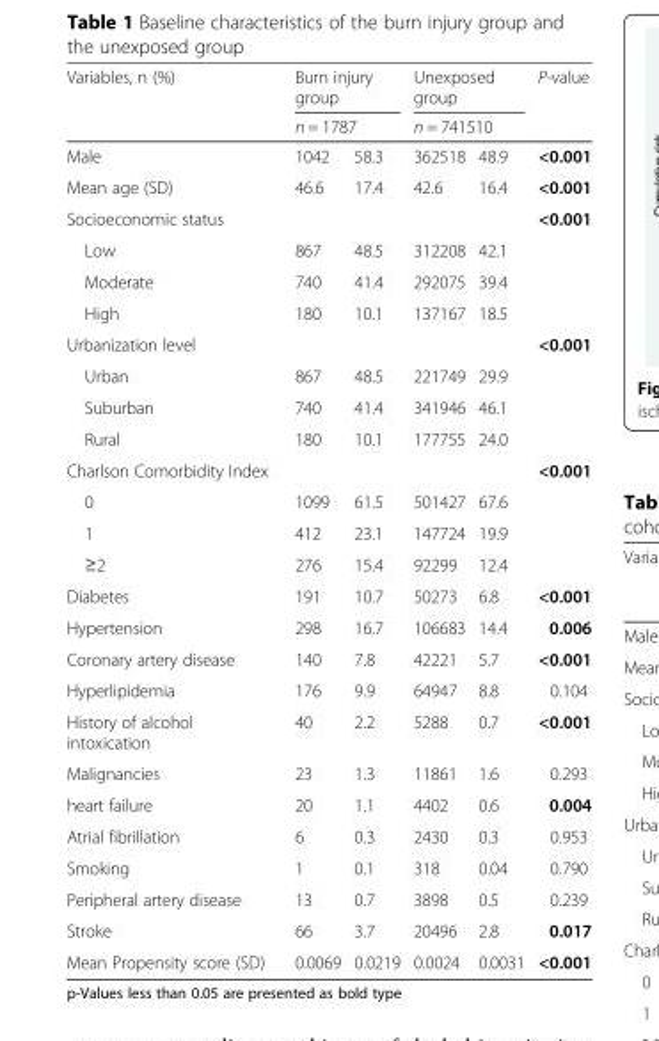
<table><thead><tr><td rowspan="3">Variables, n (%) Male</td><td rowspan="2" colspan="2">Burn injury group n = 1787</td><td rowspan="2" colspan="2">Unexposed group n = 741510</td><td rowspan="3">P-value &lt;0.001</td></tr><tr></tr><tr><td>1042</td><td>58.3</td><td>362518</td><td>48.9</td></tr></thead><tbody><tr><td>Mean age (SD)</td><td>46.6</td><td>17.4</td><td>42.6</td><td>16.4</td><td>&lt;0.001</td></tr><tr><td>Socioeconomic status</td><td></td><td></td><td></td><td></td><td>&lt;0.001</td></tr><tr><td>Low</td><td>867</td><td>48.5</td><td>312208</td><td>42.1</td><td></td></tr><tr><td>Moderate</td><td>740</td><td>41.4</td><td>292075</td><td>39.4</td><td></td></tr><tr><td>High</td><td>180</td><td>10.1</td><td>137167</td><td>18.5</td><td></td></tr><tr><td>Urbanization level</td><td></td><td></td><td></td><td></td><td>&lt;0.001</td></tr><tr><td>Urban</td><td>867</td><td>48.5</td><td>221749</td><td>29.9</td><td></td></tr><tr><td>Suburban</td><td>740</td><td>41.4</td><td>341946</td><td>46.1</td><td></td></tr><tr><td>Rural</td><td>180</td><td>10.1</td><td>177755</td><td>24.0</td><td></td></tr><tr><td>Charlson Comorbidity Index</td><td></td><td></td><td></td><td></td><td>&lt;0.001</td></tr><tr><td>0</td><td>1099</td><td>61.5</td><td>501427</td><td>67.6</td><td></td></tr><tr><td>1</td><td>412</td><td>23.1</td><td>147724</td><td>19.9</td><td></td></tr><tr><td>≥2</td><td>276</td><td>15.4</td><td>92299</td><td>12.4</td><td></td></tr><tr><td>Diabetes</td><td>191</td><td>10.7</td><td>50273</td><td>6.8</td><td>&lt;0.001</td></tr><tr><td>Hypertension</td><td>298</td><td>16.7</td><td>106683</td><td>14.4</td><td>0.006</td></tr><tr><td>Coronary artery disease</td><td>140</td><td>7.8</td><td>42221</td><td>5.7</td><td>&lt;0.001</td></tr><tr><td>Hyperlipidemia</td><td>176</td><td>9.9</td><td>64947</td><td>8.8</td><td>0.104</td></tr><tr><td>History of alcohol intoxication</td><td>40</td><td>2.2</td><td>5288</td><td>0.7</td><td>&lt;0.001</td></tr><tr><td>Malignancies</td><td>23</td><td>1.3</td><td>11861</td><td>1.6</td><td>0.293</td></tr><tr><td>heart failure</td><td>20</td><td>1.1</td><td>4402</td><td>0.6</td><td>0.004</td></tr><tr><td>Atrial fibrillation</td><td>6</td><td>0.3</td><td>2430</td><td>0.3</td><td>0.953</td></tr><tr><td>Smoking</td><td>1</td><td>0.1</td><td>318</td><td>0.04</td><td>0.790</td></tr><tr><td>Peripheral artery disease</td><td>13</td><td>0.7</td><td>3898</td><td>0.5</td><td>0.239</td></tr><tr><td>Stroke</td><td>66</td><td>3.7</td><td>20496</td><td>2.8</td><td>0.017</td></tr><tr><td>Mean Propensity score (SD)</td><td>0.0069</td><td>0.0219</td><td>0.0024</td><td>0.0031</td><td>&lt;0.001</td></tr></tbody></table>